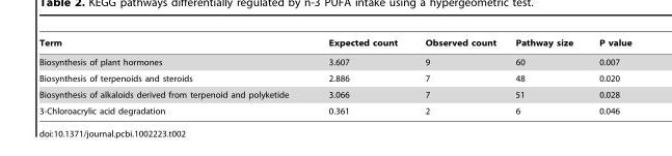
<table><thead><tr><td>Term</td><td>Expected count</td><td>Observed count</td><td>Pathway size</td><td>P value</td></tr></thead><tbody><tr><td>Biosynthesis of plant hormones</td><td>3.607</td><td>9</td><td>60</td><td>0.007</td></tr><tr><td>Biosynthesis of terpenoids and steroids</td><td>2.886</td><td>7</td><td>48</td><td>0.020</td></tr><tr><td>Biosynthesis of alkaloids derived from terpenoid and polyketide</td><td>3.066</td><td>7</td><td>51</td><td>0.028</td></tr><tr><td>3-Chloroacrylic acid degradation</td><td>0.361</td><td>2</td><td>6</td><td>0.046</td></tr></tbody></table>